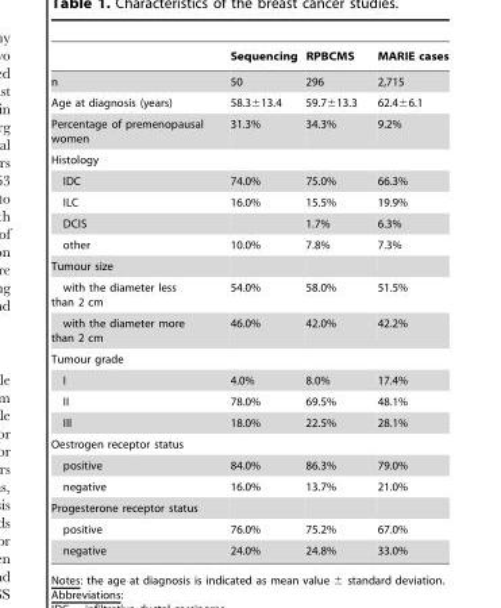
<table><thead><tr><td></td><td>Sequencing</td><td>RPBCMS</td><td>MARIE cases</td></tr></thead><tbody><tr><td>n</td><td>50</td><td>296</td><td>2,715</td></tr><tr><td>Age at diagnosis (years)</td><td>58.3±13.4</td><td>59.7±13.3</td><td>62.4±6.1</td></tr><tr><td>Percentage of premenopausal women</td><td>31.3%</td><td>34.3%</td><td>9.2%</td></tr><tr><td colspan="4">Histology</td></tr><tr><td>IDC</td><td>74.0%</td><td>75.0%</td><td>66.3%</td></tr><tr><td>ILC</td><td>16.0%</td><td>15.5%</td><td>19.9%</td></tr><tr><td>DCIS</td><td></td><td>1.7%</td><td>6.3%</td></tr><tr><td>other</td><td>10.0%</td><td>7.8%</td><td>7.3%</td></tr><tr><td colspan="4">Tumour size</td></tr><tr><td>with the diameter less than 2 cm</td><td>54.0%</td><td>58.0%</td><td>51.5%</td></tr><tr><td>with the diameter more than 2 cm</td><td>46.0%</td><td>42.0%</td><td>42.2%</td></tr><tr><td colspan="4">Tumour grade</td></tr><tr><td>I</td><td>4.0%</td><td>8.0%</td><td>17.4%</td></tr><tr><td>II</td><td>78.0%</td><td>69.5%</td><td>48.1%</td></tr><tr><td>III</td><td>18.0%</td><td>22.5%</td><td>28.1%</td></tr><tr><td colspan="4">Oestrogen receptor status</td></tr><tr><td>positive</td><td>84.0%</td><td>86.3%</td><td>79.0%</td></tr><tr><td>negative</td><td>16.0%</td><td>13.7%</td><td>21.0%</td></tr><tr><td colspan="4">Progesterone receptor status</td></tr><tr><td>positive</td><td>76.0%</td><td>75.2%</td><td>67.0%</td></tr><tr><td>negative</td><td>24.0%</td><td>24.8%</td><td>33.0%</td></tr></tbody></table>